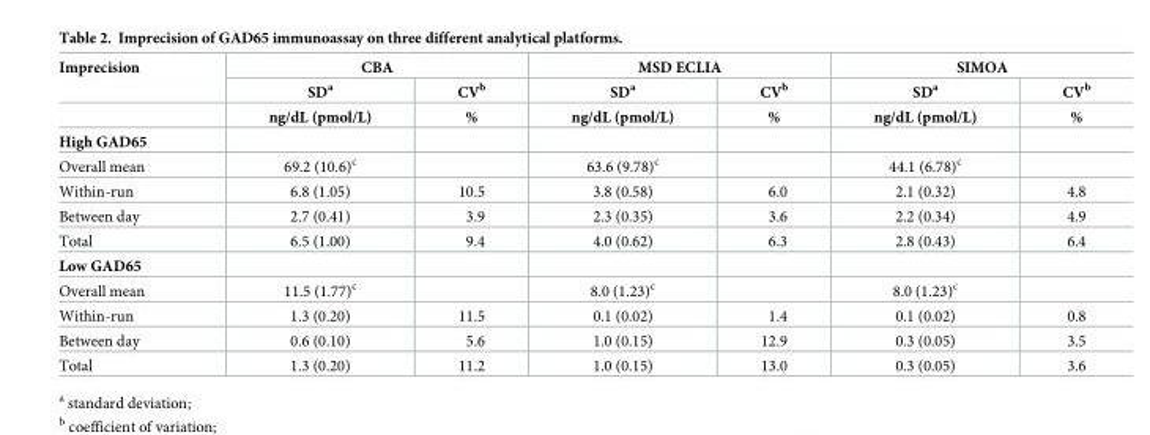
<table><thead><tr><td rowspan="3">Imprecision</td><td colspan="2">CBA</td><td colspan="2">MSD ECLIA</td><td colspan="2">SIMOA</td></tr><tr><td rowspan="2">SD<sup>a</sup> ng/dL (pmol/L)</td><td rowspan="2">CV<sup>b</sup> %</td><td rowspan="2">SD<sup>a</sup> ng/dL (pmol/L)</td><td rowspan="2">CV<sup>b</sup> %</td><td rowspan="2">SD<sup>a</sup> ng/dL (pmol/L)</td><td rowspan="2">CV<sup>b</sup> %</td></tr><tr></tr></thead><tbody><tr><td colspan="7">High GAD65</td></tr><tr><td>Overall mean</td><td>69.2 (10.6)<sup>c</sup></td><td></td><td>63.6 (9.78)<sup>c</sup></td><td></td><td>44.1 (6.78)<sup>c</sup></td><td></td></tr><tr><td>Within-run</td><td>6.8 (1.05)</td><td>10.5</td><td>3.8 (0.58)</td><td>6.0</td><td>2.1 (0.32)</td><td>4.8</td></tr><tr><td>Between day</td><td>2.7 (0.41)</td><td>3.9</td><td>2.3 (0.35)</td><td>3.6</td><td>2.2 (0.34)</td><td>4.9</td></tr><tr><td>Total</td><td>6.5 (1.00)</td><td>9.4</td><td>4.0 (0.62)</td><td>6.3</td><td>2.8 (0.43)</td><td>6.4</td></tr><tr><td colspan="7">Low GAD65</td></tr><tr><td>Overall mean</td><td>11.5 (1.77)<sup>c</sup></td><td></td><td>8.0 (1.23)<sup>c</sup></td><td></td><td>8.0 (1.23)<sup>c</sup></td><td></td></tr><tr><td>Within-run</td><td>1.3 (0.20)</td><td>11.5</td><td>0.1 (0.02)</td><td>1.4</td><td>0.1 (0.02)</td><td>0.8</td></tr><tr><td>Between day</td><td>0.6 (0.10)</td><td>5.6</td><td>1.0 (0.15)</td><td>12.9</td><td>0.3 (0.05)</td><td>3.5</td></tr><tr><td>Total</td><td>1.3 (0.20)</td><td>11.2</td><td>1.0 (0.15)</td><td>13.0</td><td>0.3 (0.05)</td><td>3.6</td></tr></tbody></table>